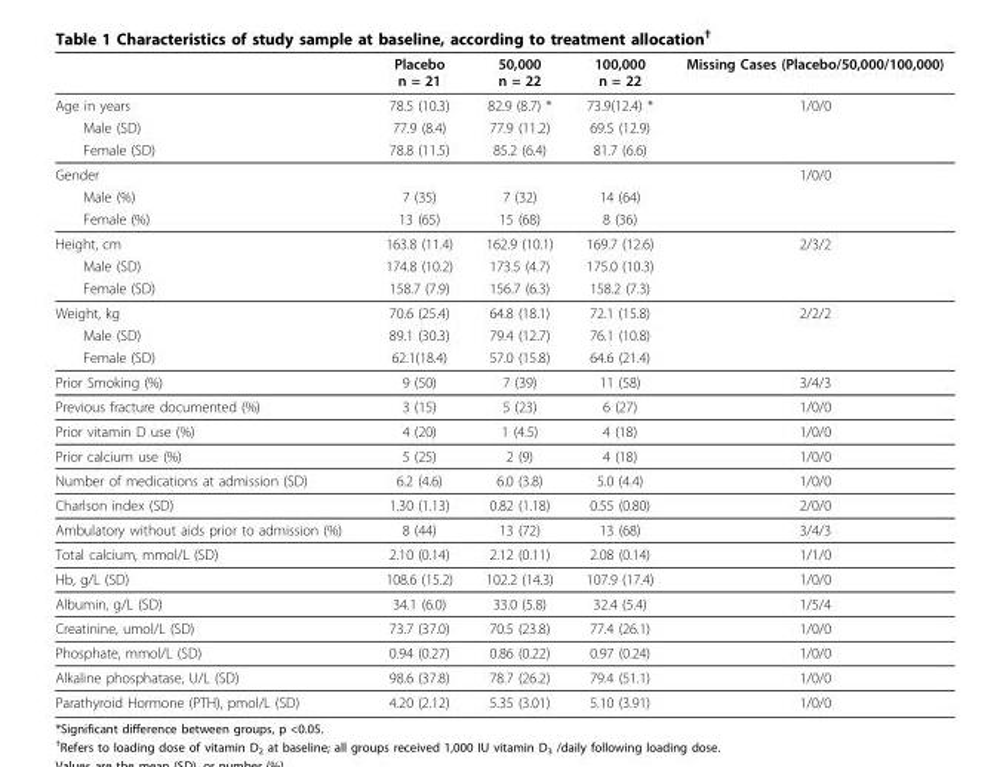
<table><thead><tr><td></td><td>Placebo n = 21</td><td>50,000 n = 22</td><td>100,000 n = 22</td><td>Missing Cases (Placebo/50,000/100,000)</td></tr></thead><tbody><tr><td>Age in years</td><td>78.5 (10.3)</td><td>82.9 (8.7) *</td><td>73.9(12.4) *</td><td>1/0/0</td></tr><tr><td>Male (SD)</td><td>77.9 (8.4)</td><td>77.9 (11.2)</td><td>69.5 (12.9)</td><td></td></tr><tr><td>Female (SD)</td><td>78.8 (11.5)</td><td>85.2 (6.4)</td><td>81.7 (6.6)</td><td></td></tr><tr><td>Gender</td><td></td><td></td><td></td><td>1/0/0</td></tr><tr><td>Male (%)</td><td>7 (35)</td><td>7 (32)</td><td>14 (64)</td><td></td></tr><tr><td>Female (%)</td><td>13 (65)</td><td>15 (68)</td><td>8 (36)</td><td></td></tr><tr><td>Height, cm</td><td>163.8 (11.4)</td><td>162.9 (10.1)</td><td>169.7 (12.6)</td><td>2/3/2</td></tr><tr><td>Male (SD)</td><td>174.8 (10.2)</td><td>173.5 (4.7)</td><td>175.0 (10.3)</td><td></td></tr><tr><td>Female (SD)</td><td>158.7 (7.9)</td><td>156.7 (6.3)</td><td>158.2 (7.3)</td><td></td></tr><tr><td>Weight, kg</td><td>70.6 (25.4)</td><td>64.8 (18.1)</td><td>72.1 (15.8)</td><td>2/2/2</td></tr><tr><td>Male (SD)</td><td>89.1 (30.3)</td><td>79.4 (12.7)</td><td>76.1 (10.8)</td><td></td></tr><tr><td>Female (SD)</td><td>62.1(18.4)</td><td>57.0 (15.8)</td><td>64.6 (21.4)</td><td></td></tr><tr><td>Prior Smoking (%)</td><td>9 (50)</td><td>7 (39)</td><td>11 (58)</td><td>3/4/3</td></tr><tr><td>Previous fracture documented (%)</td><td>3 (15)</td><td>5 (23)</td><td>6 (27)</td><td>1/0/0</td></tr><tr><td>Prior vitamin D use (%)</td><td>4 (20)</td><td>1 (4.5)</td><td>4 (18)</td><td>1/0/0</td></tr><tr><td>Prior calcium use (%)</td><td>5 (25)</td><td>2 (9)</td><td>4 (18)</td><td>1/0/0</td></tr><tr><td>Number of medications at admission (SD)</td><td>6.2 (4.6)</td><td>6.0 (3.8)</td><td>5.0 (4.4)</td><td>1/0/0</td></tr><tr><td>Charlson index (SD)</td><td>1.30 (1.13)</td><td>0.82 (1.18)</td><td>0.55 (0.80)</td><td>2/0/0</td></tr><tr><td>Ambulatory without aids prior to admission (%)</td><td>8 (44)</td><td>13 (72)</td><td>13 (68)</td><td>3/4/3</td></tr><tr><td>Total calcium, mmol/L (SD)</td><td>2.10 (0.14)</td><td>2.12 (0.11)</td><td>2.08 (0.14)</td><td>1/1/0</td></tr><tr><td>Hb, g/L (SD)</td><td>108.6 (15.2)</td><td>102.2 (14.3)</td><td>107.9 (17.4)</td><td>1/0/0</td></tr><tr><td>Albumin, g/L (SD)</td><td>34.1 (6.0)</td><td>33.0 (5.8)</td><td>32.4 (5.4)</td><td>1/5/4</td></tr><tr><td>Creatinine, umol/L (SD)</td><td>73.7 (37.0)</td><td>70.5 (23.8)</td><td>77.4 (26.1)</td><td>1/0/0</td></tr><tr><td>Phosphate, mmol/L (SD)</td><td>0.94 (0.27)</td><td>0.86 (0.22)</td><td>0.97 (0.24)</td><td>1/0/0</td></tr><tr><td>Alkaline phosphatase, U/L (SD)</td><td>98.6 (37.8)</td><td>78.7 (26.2)</td><td>79.4 (51.1)</td><td>1/0/0</td></tr><tr><td>Parathyroid Hormone (PTH), pmol/L (SD)</td><td>4.20 (2.12)</td><td>5.35 (3.01)</td><td>5.10 (3.91)</td><td>1/0/0</td></tr></tbody></table>